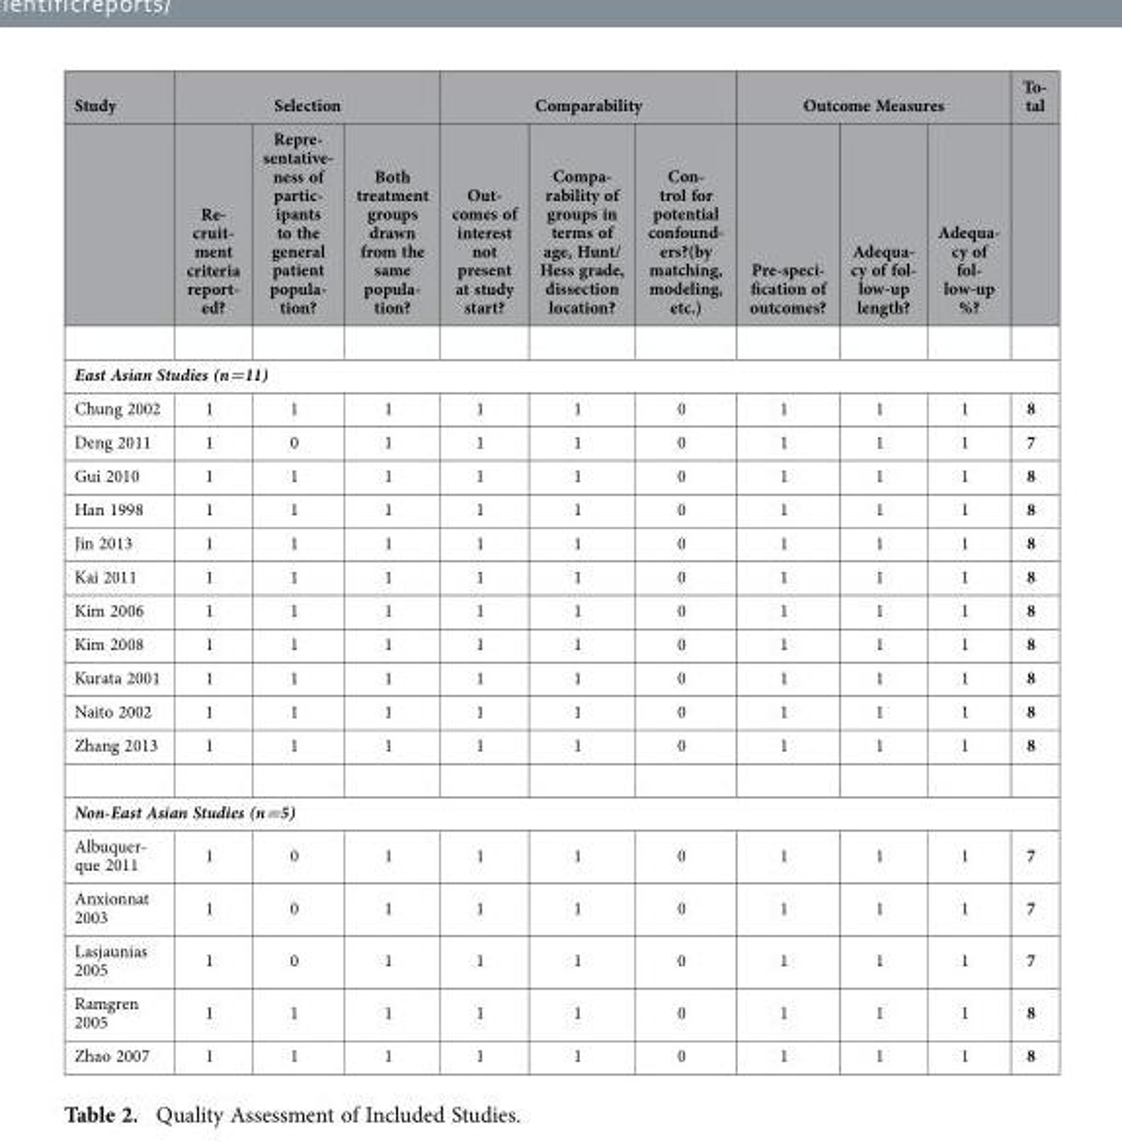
<table><thead><tr><td rowspan="2">Study</td><td colspan="3">Selection</td><td colspan="3">Comparability</td><td colspan="3">Outcome Measures</td><td rowspan="2">To- tal</td></tr><tr><td>Re- cruit- ment criteria report- ed?</td><td>Repre- sentative- ness of partic- ipants to the general patient popula- tion?</td><td>Both treatment groups drawn from the same popula- tion?</td><td>Out- comes of interest not present at study start?</td><td>Compa- rability of groups in terms of age, Hunt/ Hess grade, dissection location?</td><td>Con- trol for potential confound- ers?(by matching, modeling, etc.)</td><td>Pre-speci- fication of outcomes?</td><td>Adequa- cy of fol- low-up length?</td><td>Adequa- cy of fol- low-up %?</td></tr></thead><tbody><tr><td colspan="11">East Asian Studies (n=11)</td></tr><tr><td>Chung 2002</td><td>1</td><td>1</td><td>1</td><td>1</td><td>1</td><td>0</td><td>1</td><td>1</td><td>1</td><td>8</td></tr><tr><td>Deng 2011</td><td>1</td><td>0</td><td>1</td><td>1</td><td>1</td><td>0</td><td>1</td><td>1</td><td>1</td><td>7</td></tr><tr><td>Gui 2010</td><td>1</td><td>1</td><td>1</td><td>1</td><td>1</td><td>0</td><td>1</td><td>1</td><td>1</td><td>8</td></tr><tr><td>Han 1998</td><td>1</td><td>1</td><td>1</td><td>1</td><td>1</td><td>0</td><td>1</td><td>1</td><td>1</td><td>8</td></tr><tr><td>Jin 2013</td><td>1</td><td>1</td><td>1</td><td>1</td><td>1</td><td>0</td><td>1</td><td>1</td><td>1</td><td>8</td></tr><tr><td>Kai 2011</td><td>1</td><td>1</td><td>1</td><td>1</td><td>1</td><td>0</td><td>1</td><td>1</td><td>1</td><td>8</td></tr><tr><td>Kim 2006</td><td>1</td><td>1</td><td>1</td><td>1</td><td>1</td><td>0</td><td>1</td><td>1</td><td>1</td><td>8</td></tr><tr><td>Kim 2008</td><td>1</td><td>1</td><td>1</td><td>1</td><td>1</td><td>0</td><td>1</td><td>1</td><td>1</td><td>8</td></tr><tr><td>Kurata 2001</td><td>1</td><td>1</td><td>1</td><td>1</td><td>1</td><td>0</td><td>1</td><td>1</td><td>1</td><td>8</td></tr><tr><td>Naito 2002</td><td>1</td><td>1</td><td>1</td><td>1</td><td>1</td><td>0</td><td>1</td><td>1</td><td>1</td><td>8</td></tr><tr><td>Zhang 2013</td><td>1</td><td>1</td><td>1</td><td>1</td><td>1</td><td>0</td><td>1</td><td>1</td><td>1</td><td>8</td></tr><tr><td colspan="11">Non-East Asian Studies (n=5)</td></tr><tr><td>Albuquer- que 2011</td><td>1</td><td>0</td><td>1</td><td>1</td><td>1</td><td>0</td><td>1</td><td>1</td><td>1</td><td>7</td></tr><tr><td>Anxionnat 2003</td><td>1</td><td>0</td><td>1</td><td>1</td><td>1</td><td>0</td><td>1</td><td>1</td><td>1</td><td>7</td></tr><tr><td>Lasjaunias 2005</td><td>1</td><td>0</td><td>1</td><td>1</td><td>1</td><td>0</td><td>1</td><td>1</td><td>1</td><td>7</td></tr><tr><td>Ramgren 2005</td><td>1</td><td>1</td><td>1</td><td>1</td><td>1</td><td>0</td><td>1</td><td>1</td><td>1</td><td>8</td></tr><tr><td>Zhao 2007</td><td>1</td><td>1</td><td>1</td><td>1</td><td>1</td><td>0</td><td>1</td><td>1</td><td>1</td><td>8</td></tr></tbody></table>